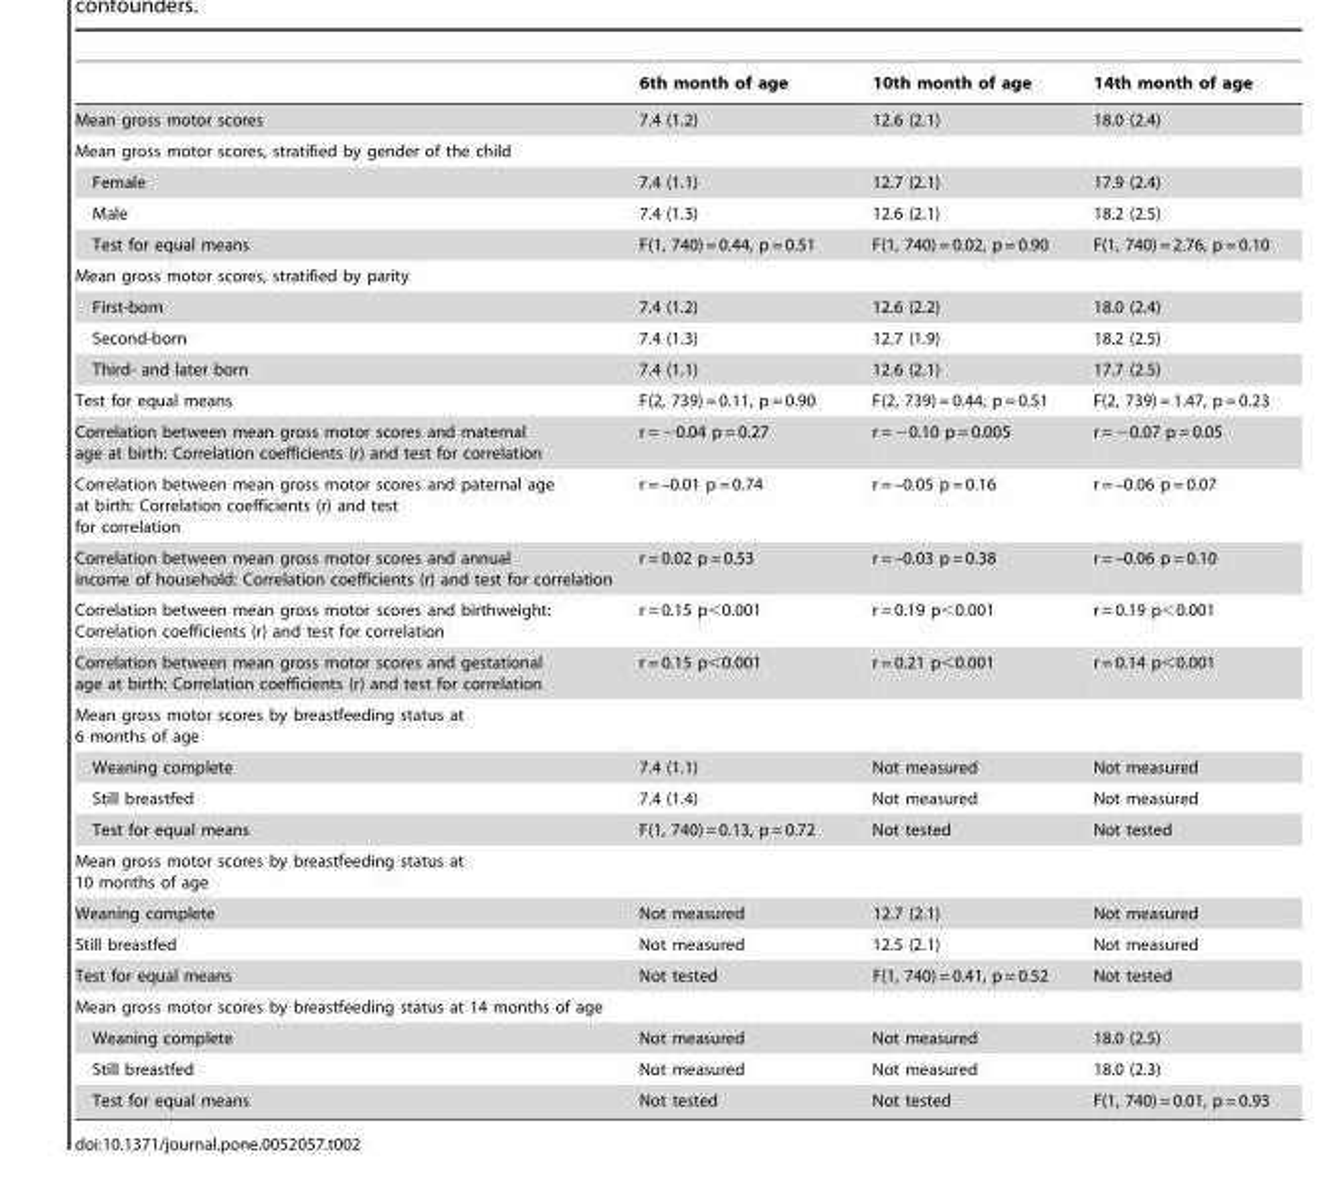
<table><thead><tr><td></td><td>6th month of age</td><td>10th month of age</td><td>14th month of age</td></tr></thead><tbody><tr><td>Mean gross motor scores</td><td>7.4 (1.2)</td><td>12.6 (2.1)</td><td>18.0 (2.4)</td></tr><tr><td colspan="4">Mean gross motor scores, stratified by gender of the child</td></tr><tr><td>Female</td><td>7.4 (1.1)</td><td>12.7 (2.1)</td><td>17.9 (2.4)</td></tr><tr><td>Male</td><td>7.4 (1.3)</td><td>12.6 (2.1)</td><td>18.2 (2.5)</td></tr><tr><td>Test for equal means</td><td>F(1, 740) = 0.44, p = 0.51</td><td>F(1, 740) = 0.02, p = 0.90</td><td>F(1, 740) = 2.76, p = 0.10</td></tr><tr><td colspan="4">Mean gross motor scores, stratified by parity</td></tr><tr><td>First-born</td><td>7.4 (1.2)</td><td>12.6 (2.2)</td><td>18.0 (2.4)</td></tr><tr><td>Second-born</td><td>7.4 (1.3)</td><td>12.7 (1.9)</td><td>18.2 (2.5)</td></tr><tr><td>Third- and later born</td><td>7.4 (1.1)</td><td>12.6 (2.1)</td><td>17.7 (2.5)</td></tr><tr><td>Test for equal means</td><td>F(2, 739) = 0.11, p = 0.90</td><td>F(2, 739) = 0.44, p = 0.51</td><td>F(2, 739) = 1.47, p = 0.23</td></tr><tr><td>Correlation between mean gross motor scores and maternal age at birth: Correlation coefficients (r) and test for correlation</td><td>r = −0.04 p = 0.27</td><td>r = −0.10 p = 0.005</td><td>r = −0.07 p = 0.05</td></tr><tr><td>Correlation between mean gross motor scores and paternal age at birth: Correlation coefficients (r) and test for correlation</td><td>r = –0.01 p = 0.74</td><td>r = –0.05 p = 0.16</td><td>r = –0.06 p = 0.07</td></tr><tr><td>Correlation between mean gross motor scores and annual income of household: Correlation coefficients (r) and test for correlation</td><td>r = 0.02 p = 0.53</td><td>r = –0.03 p = 0.38</td><td>r = –0.06 p = 0.10</td></tr><tr><td>Correlation between mean gross motor scores and birthweight: Correlation coefficients (r) and test for correlation</td><td>r = 0.15 p&lt;0.001</td><td>r = 0.19 p&lt;0.001</td><td>r = 0.19 p&lt;0.001</td></tr><tr><td>Correlation between mean gross motor scores and gestational age at birth: Correlation coefficients (r) and test for correlation</td><td>r = 0.15 p&lt;0.001</td><td>r = 0.21 p&lt;0.001</td><td>r = 0.14 p&lt;0.001</td></tr><tr><td colspan="4">Mean gross motor scores by breastfeeding status at 6 months of age</td></tr><tr><td>Weaning complete</td><td>7.4 (1.1)</td><td>Not measured</td><td>Not measured</td></tr><tr><td>Still breastfed</td><td>7.4 (1.4)</td><td>Not measured</td><td>Not measured</td></tr><tr><td>Test for equal means</td><td>F(1, 740) = 0.13, p = 0.72</td><td>Not tested</td><td>Not tested</td></tr><tr><td colspan="4">Mean gross motor scores by breastfeeding status at 10 months of age</td></tr><tr><td>Weaning complete</td><td>Not measured</td><td>12.7 (2.1)</td><td>Not measured</td></tr><tr><td>Still breastfed</td><td>Not measured</td><td>12.5 (2.1)</td><td>Not measured</td></tr><tr><td>Test for equal means</td><td>Not tested</td><td>F(1, 740) = 0.41, p = 0.52</td><td>Not tested</td></tr><tr><td colspan="4">Mean gross motor scores by breastfeeding status at 14 months of age</td></tr><tr><td>Weaning complete</td><td>Not measured</td><td>Not measured</td><td>18.0 (2.5)</td></tr><tr><td>Still breastfed</td><td>Not measured</td><td>Not measured</td><td>18.0 (2.3)</td></tr><tr><td>Test for equal means</td><td>Not tested</td><td>Not tested</td><td>F(1, 740) = 0.01, p = 0.93</td></tr></tbody></table>